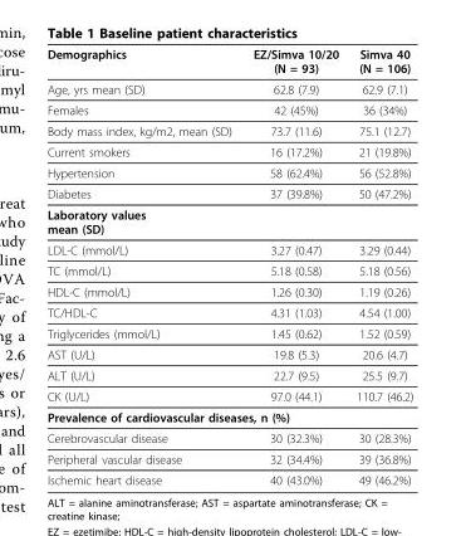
<table><thead><tr><td>Demographics</td><td>EZ/Simva 10/20 (N = 93)</td><td>Simva 40 (N = 106)</td></tr></thead><tbody><tr><td>Age, yrs mean (SD)</td><td>62.8 (7.9)</td><td>62.9 (7.1)</td></tr><tr><td>Females</td><td>42 (45%)</td><td>36 (34%)</td></tr><tr><td>Body mass index, kg/m2, mean (SD)</td><td>73.7 (11.6)</td><td>75.1 (12.7)</td></tr><tr><td>Current smokers</td><td>16 (17.2%)</td><td>21 (19.8%)</td></tr><tr><td>Hypertension</td><td>58 (62.4%)</td><td>56 (52.8%)</td></tr><tr><td>Diabetes</td><td>37 (39.8%)</td><td>50 (47.2%)</td></tr><tr><td colspan="3">Laboratory values mean (SD)</td></tr><tr><td>LDL-C (mmol/L)</td><td>3.27 (0.47)</td><td>3.29 (0.44)</td></tr><tr><td>TC (mmol/L)</td><td>5.18 (0.58)</td><td>5.18 (0.56)</td></tr><tr><td>HDL-C (mmol/L)</td><td>1.26 (0.30)</td><td>1.19 (0.26)</td></tr><tr><td>TC/HDL-C</td><td>4.31 (1.03)</td><td>4.54 (1.00)</td></tr><tr><td>Triglycerides (mmol/L)</td><td>1.45 (0.62)</td><td>1.52 (0.59)</td></tr><tr><td>AST (U/L)</td><td>19.8 (5.3)</td><td>20.6 (4.7)</td></tr><tr><td>ALT (U/L)</td><td>22.7 (9.5)</td><td>25.5 (9.7)</td></tr><tr><td>CK (U/L)</td><td>97.0 (44.1)</td><td>110.7 (46.2)</td></tr><tr><td colspan="3">Prevalence of cardiovascular diseases, n (%)</td></tr><tr><td>Cerebrovascular disease</td><td>30 (32.3%)</td><td>30 (28.3%)</td></tr><tr><td>Peripheral vascular disease</td><td>32 (34.4%)</td><td>39 (36.8%)</td></tr><tr><td>Ischemic heart disease</td><td>40 (43.0%)</td><td>49 (46.2%)</td></tr></tbody></table>